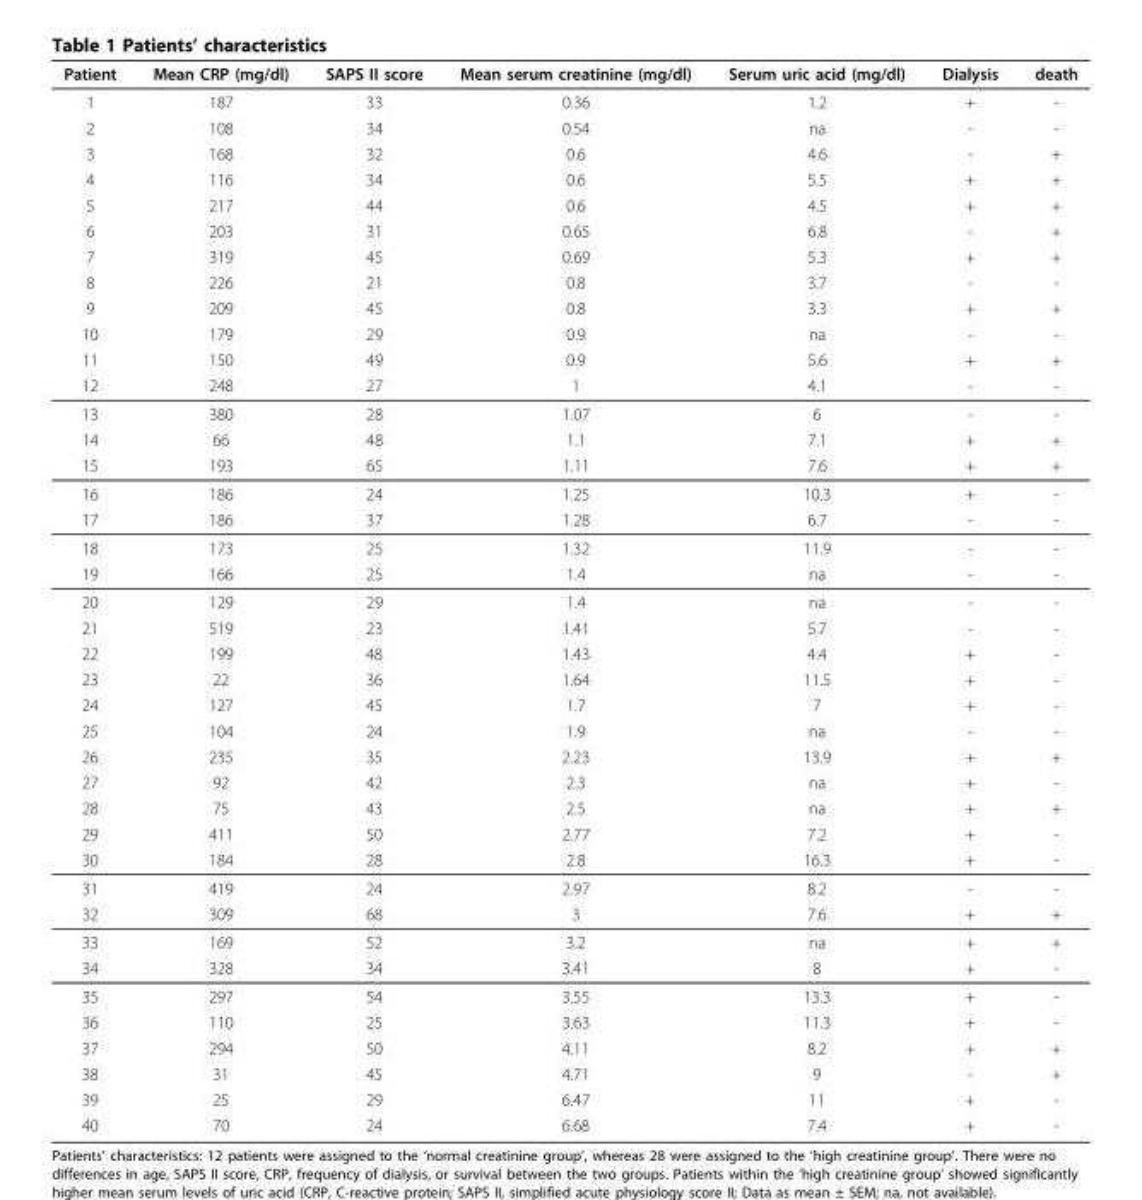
<table><thead><tr><td>Patient</td><td>Mean CRP (mg/dl)</td><td>SAPS II score</td><td>Mean serum creatinine (mg/dl)</td><td>Serum uric acid (mg/dl)</td><td>Dialysis</td><td>death</td></tr></thead><tbody><tr><td>1</td><td>187</td><td>33</td><td>0.36</td><td>1.2</td><td>+</td><td>-</td></tr><tr><td>2</td><td>108</td><td>34</td><td>0.54</td><td>na</td><td>-</td><td>-</td></tr><tr><td>3</td><td>168</td><td>32</td><td>0.6</td><td>4.6</td><td>-</td><td>+</td></tr><tr><td>4</td><td>116</td><td>34</td><td>0.6</td><td>5.5</td><td>+</td><td>+</td></tr><tr><td>5</td><td>217</td><td>44</td><td>0.6</td><td>4.5</td><td>+</td><td>+</td></tr><tr><td>6</td><td>203</td><td>31</td><td>0.65</td><td>6.8</td><td>-</td><td>+</td></tr><tr><td>7</td><td>319</td><td>45</td><td>0.69</td><td>5.3</td><td>+</td><td>+</td></tr><tr><td>8</td><td>226</td><td>21</td><td>0.8</td><td>3.7</td><td>-</td><td>-</td></tr><tr><td>9</td><td>209</td><td>45</td><td>0.8</td><td>3.3</td><td>+</td><td>+</td></tr><tr><td>10</td><td>179</td><td>29</td><td>0.9</td><td>na</td><td>-</td><td>-</td></tr><tr><td>11</td><td>150</td><td>49</td><td>0.9</td><td>5.6</td><td>+</td><td>+</td></tr><tr><td>12</td><td>248</td><td>27</td><td>1</td><td>4.1</td><td>-</td><td>-</td></tr><tr><td>13</td><td>380</td><td>28</td><td>1.07</td><td>6</td><td>-</td><td>-</td></tr><tr><td>14</td><td>66</td><td>48</td><td>1.1</td><td>7.1</td><td>+</td><td>+</td></tr><tr><td>15</td><td>193</td><td>65</td><td>1.11</td><td>7.6</td><td>+</td><td>+</td></tr><tr><td>16</td><td>186</td><td>24</td><td>1.25</td><td>10.3</td><td>+</td><td>-</td></tr><tr><td>17</td><td>186</td><td>37</td><td>1.28</td><td>6.7</td><td>-</td><td>-</td></tr><tr><td>18</td><td>173</td><td>25</td><td>1.32</td><td>11.9</td><td>-</td><td>-</td></tr><tr><td>19</td><td>166</td><td>25</td><td>1.4</td><td>na</td><td>-</td><td>-</td></tr><tr><td>20</td><td>129</td><td>29</td><td>1.4</td><td>na</td><td>-</td><td>-</td></tr><tr><td>21</td><td>519</td><td>23</td><td>1.41</td><td>5.7</td><td>-</td><td>-</td></tr><tr><td>22</td><td>199</td><td>48</td><td>1.43</td><td>4.4</td><td>+</td><td>-</td></tr><tr><td>23</td><td>22</td><td>36</td><td>1.64</td><td>11.5</td><td>+</td><td>-</td></tr><tr><td>24</td><td>127</td><td>45</td><td>1.7</td><td>7</td><td>+</td><td>-</td></tr><tr><td>25</td><td>104</td><td>24</td><td>1.9</td><td>na</td><td>-</td><td>-</td></tr><tr><td>26</td><td>235</td><td>35</td><td>2.23</td><td>13.9</td><td>+</td><td>+</td></tr><tr><td>27</td><td>92</td><td>42</td><td>2.3</td><td>na</td><td>+</td><td>-</td></tr><tr><td>28</td><td>75</td><td>43</td><td>2.5</td><td>na</td><td>+</td><td>+</td></tr><tr><td>29</td><td>411</td><td>50</td><td>2.77</td><td>7.2</td><td>+</td><td>-</td></tr><tr><td>30</td><td>184</td><td>28</td><td>2.8</td><td>16.3</td><td>+</td><td>-</td></tr><tr><td>31</td><td>419</td><td>24</td><td>2.97</td><td>8.2</td><td>-</td><td>-</td></tr><tr><td>32</td><td>309</td><td>68</td><td>3</td><td>7.6</td><td>+</td><td>+</td></tr><tr><td>33</td><td>169</td><td>52</td><td>3.2</td><td>na</td><td>+</td><td>+</td></tr><tr><td>34</td><td>328</td><td>34</td><td>3.41</td><td>8</td><td>+</td><td>-</td></tr><tr><td>35</td><td>297</td><td>54</td><td>3.55</td><td>13.3</td><td>+</td><td>-</td></tr><tr><td>36</td><td>110</td><td>25</td><td>3.63</td><td>11.3</td><td>+</td><td>-</td></tr><tr><td>37</td><td>294</td><td>50</td><td>4.11</td><td>8.2</td><td>+</td><td>+</td></tr><tr><td>38</td><td>31</td><td>45</td><td>4.71</td><td>9</td><td>-</td><td>+</td></tr><tr><td>39</td><td>25</td><td>29</td><td>6.47</td><td>11</td><td>+</td><td>-</td></tr><tr><td>40</td><td>70</td><td>24</td><td>6.68</td><td>7.4</td><td>+</td><td>-</td></tr></tbody></table>